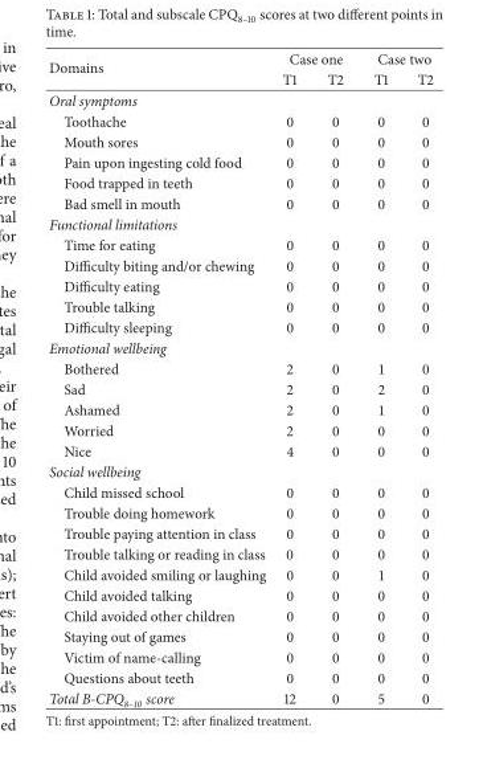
<table><thead><tr><td rowspan="2">Domains</td><td colspan="2">Case one</td><td colspan="2">Case two</td></tr><tr><td>T1</td><td>T2</td><td>T1</td><td>T2</td></tr></thead><tbody><tr><td colspan="5">Oral symptoms</td></tr><tr><td>Toothache</td><td>0</td><td>0</td><td>0</td><td>0</td></tr><tr><td>Mouth sores</td><td>0</td><td>0</td><td>0</td><td>0</td></tr><tr><td>Pain upon ingesting cold food</td><td>0</td><td>0</td><td>0</td><td>0</td></tr><tr><td>Food trapped in teeth</td><td>0</td><td>0</td><td>0</td><td>0</td></tr><tr><td>Bad smell in mouth</td><td>0</td><td>0</td><td>0</td><td>0</td></tr><tr><td colspan="5">Functional limitations</td></tr><tr><td>Time for eating</td><td>0</td><td>0</td><td>0</td><td>0</td></tr><tr><td>Difficulty biting and/or chewing</td><td>0</td><td>0</td><td>0</td><td>0</td></tr><tr><td>Difficulty eating</td><td>0</td><td>0</td><td>0</td><td>0</td></tr><tr><td>Trouble talking</td><td>0</td><td>0</td><td>0</td><td>0</td></tr><tr><td>Difficulty sleeping</td><td>0</td><td>0</td><td>0</td><td>0</td></tr><tr><td colspan="5">Emotional wellbeing</td></tr><tr><td>Bothered</td><td>2</td><td>0</td><td>1</td><td>0</td></tr><tr><td>Sad</td><td>2</td><td>0</td><td>2</td><td>0</td></tr><tr><td>Ashamed</td><td>2</td><td>0</td><td>1</td><td>0</td></tr><tr><td>Worried</td><td>2</td><td>0</td><td>0</td><td>0</td></tr><tr><td>Nice</td><td>4</td><td>0</td><td>0</td><td>0</td></tr><tr><td colspan="5">Social wellbeing</td></tr><tr><td>Child missed school</td><td>0</td><td>0</td><td>0</td><td>0</td></tr><tr><td>Trouble doing homework</td><td>0</td><td>0</td><td>0</td><td>0</td></tr><tr><td>Trouble paying attention in class</td><td>0</td><td>0</td><td>0</td><td>0</td></tr><tr><td>Trouble talking or reading in class</td><td>0</td><td>0</td><td>0</td><td>0</td></tr><tr><td>Child avoided smiling or laughing</td><td>0</td><td>0</td><td>1</td><td>0</td></tr><tr><td>Child avoided talking</td><td>0</td><td>0</td><td>0</td><td>0</td></tr><tr><td>Child avoided other children</td><td>0</td><td>0</td><td>0</td><td>0</td></tr><tr><td>Staying out of games</td><td>0</td><td>0</td><td>0</td><td>0</td></tr><tr><td>Victim of name-calling</td><td>0</td><td>0</td><td>0</td><td>0</td></tr><tr><td>Questions about teeth</td><td>0</td><td>0</td><td>0</td><td>0</td></tr><tr><td>Total B-CPQ<sub>8–10</sub> score</td><td>12</td><td>0</td><td>5</td><td>0</td></tr></tbody></table>